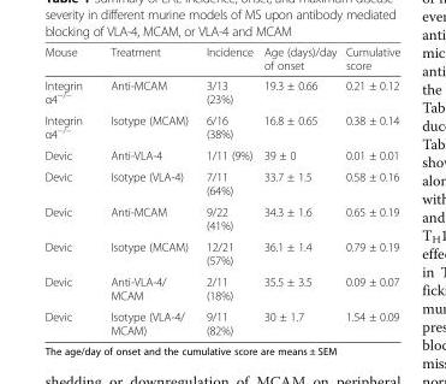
<table><thead><tr><td>Mouse</td><td>Treatment</td><td>Incidence</td><td>Age (days)/day of onset</td><td>Cumulative score</td></tr></thead><tbody><tr><td>Integrin α4<sup>−/−</sup></td><td>Anti-MCAM</td><td>3/13 (23%)</td><td>19.3 ± 0.66</td><td>0.21 ± 0.12</td></tr><tr><td>Integrin α4<sup>−/−</sup></td><td>Isotype (MCAM)</td><td>6/16 (38%)</td><td>16.8 ± 0.65</td><td>0.38 ± 0.14</td></tr><tr><td>Devic</td><td>Anti-VLA-4</td><td>1/11 (9%)</td><td>39 ± 0</td><td>0.01 ± 0.01</td></tr><tr><td>Devic</td><td>Isotype (VLA-4)</td><td>7/11 (64%)</td><td>33.7 ± 1.5</td><td>0.58 ± 0.16</td></tr><tr><td>Devic</td><td>Anti-MCAM</td><td>9/22 (41%)</td><td>34.3 ± 1.6</td><td>0.65 ± 0.19</td></tr><tr><td>Devic</td><td>Isotype (MCAM)</td><td>12/21 (57%)</td><td>36.1 ± 1.4</td><td>0.79 ± 0.19</td></tr><tr><td>Devic</td><td>Anti-VLA-4/ MCAM</td><td>2/11 (18%)</td><td>35.5 ± 3.5</td><td>0.09 ± 0.07</td></tr><tr><td>Devic</td><td>Isotype (VLA-4/ MCAM)</td><td>9/11 (82%)</td><td>30 ± 1.7</td><td>1.54 ± 0.09</td></tr></tbody></table>